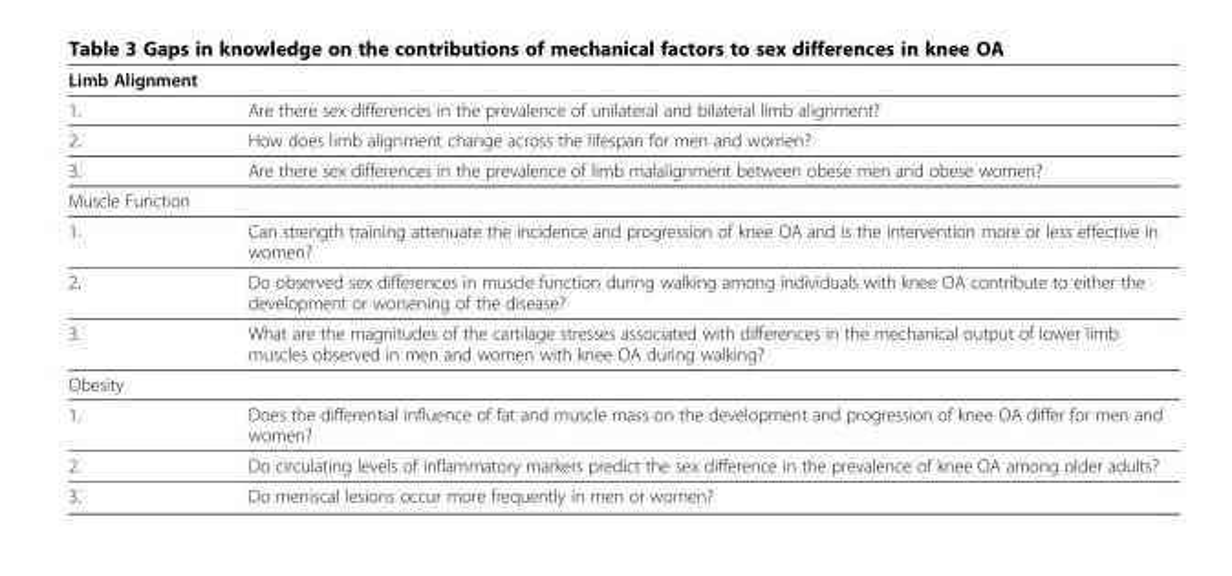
<table><thead><tr><td>Limb Alignment</td><td></td></tr></thead><tbody><tr><td>1.</td><td>Are there sex differences in the prevalence of unilateral and bilateral limb alignment?</td></tr><tr><td>2.</td><td>How does limb alignment change across the lifespan for men and women?</td></tr><tr><td>3.</td><td>Are there sex differences in the prevalence of limb malalignment between obese men and obese women?</td></tr><tr><td colspan="2">Muscle Function</td></tr><tr><td>1.</td><td>Can strength training attenuate the incidence and progression of knee OA and is the intervention more or less effective in women?</td></tr><tr><td>2.</td><td>Do observed sex differences in muscle function during walking among individuals with knee OA contribute to either the development or worsening of the disease?</td></tr><tr><td>3.</td><td>What are the magnitudes of the cartilage stresses associated with differences in the mechanical output of lower limb muscles observed in men and women with knee OA during walking?</td></tr><tr><td colspan="2">Obesity</td></tr><tr><td>1.</td><td>Does the differential influence of fat and muscle mass on the development and progression of knee OA differ for men and women?</td></tr><tr><td>2.</td><td>Do circulating levels of inflammatory markers predict the sex difference in the prevalence of knee OA among older adults?</td></tr><tr><td>3.</td><td>Do meniscal lesions occur more frequently in men or women?</td></tr></tbody></table>